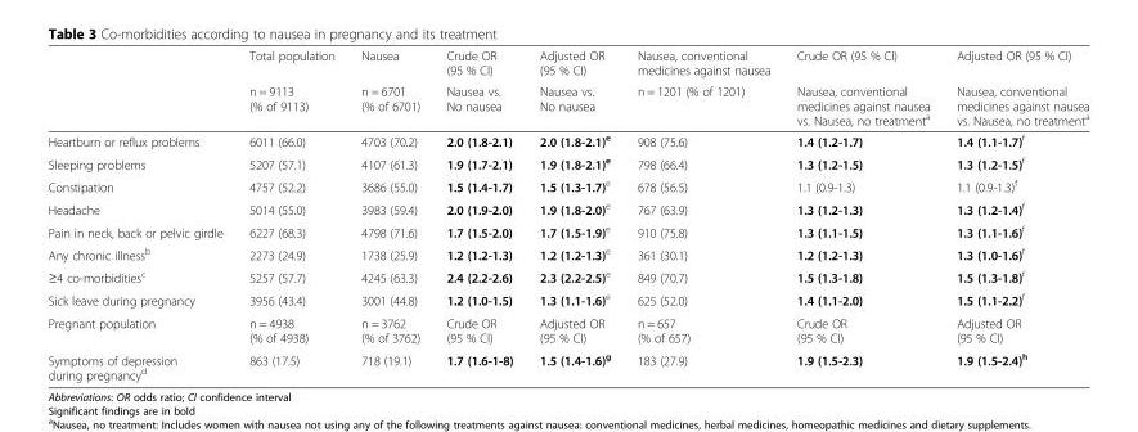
<table><thead><tr><td rowspan="2"></td><td rowspan="2">Total population n = 9113 (% of 9113)</td><td rowspan="2">Nausea n = 6701 (% of 6701)</td><td rowspan="2">Crude OR (95 % CI) Nausea vs. No nausea</td><td rowspan="2">Adjusted OR (95 % CI) Nausea vs. No nausea</td><td rowspan="2">Nausea, conventional medicines against nausea n = 1201 (% of 1201)</td><td rowspan="2">Crude OR (95 % CI) Nausea, conventional medicines against nausea vs. Nausea, no treatmenta</td><td rowspan="2">Adjusted OR (95 % CI) Nausea, conventional medicines against nausea vs. Nausea, no treatmenta</td></tr><tr></tr></thead><tbody><tr><td>Heartburn or reflux problems</td><td>6011 (66.0)</td><td>4703 (70.2)</td><td>2.0 (1.8-2.1)</td><td>2.0 (1.8-2.1)<sup>e</sup></td><td>908 (75.6)</td><td>1.4 (1.2-1.7)</td><td>1.4 (1.1-1.7)<sup>f</sup></td></tr><tr><td>Sleeping problems</td><td>5207 (57.1)</td><td>4107 (61.3)</td><td>1.9 (1.7-2.1)</td><td>1.9 (1.8-2.1)<sup>e</sup></td><td>798 (66.4)</td><td>1.3 (1.2-1.5)</td><td>1.3 (1.2-1.5)<sup>f</sup></td></tr><tr><td>Constipation</td><td>4757 (52.2)</td><td>3686 (55.0)</td><td>1.5 (1.4-1.7)</td><td>1.5 (1.3-1.7)<sup>e</sup></td><td>678 (56.5)</td><td>1.1 (0.9-1.3)</td><td>1.1 (0.9-1.3)<sup>f</sup></td></tr><tr><td>Headache</td><td>5014 (55.0)</td><td>3983 (59.4)</td><td>2.0 (1.9-2.0)</td><td>1.9 (1.8-2.0)<sup>e</sup></td><td>767 (63.9)</td><td>1.3 (1.2-1.3)</td><td>1.3 (1.2-1.4)<sup>f</sup></td></tr><tr><td>Pain in neck, back or pelvic girdle</td><td>6227 (68.3)</td><td>4798 (71.6)</td><td>1.7 (1.5-2.0)</td><td>1.7 (1.5-1.9)<sup>e</sup></td><td>910 (75.8)</td><td>1.3 (1.1-1.5)</td><td>1.3 (1.1-1.6)<sup>f</sup></td></tr><tr><td>Any chronic illness<sup>b</sup></td><td>2273 (24.9)</td><td>1738 (25.9)</td><td>1.2 (1.2-1.3)</td><td>1.2 (1.2-1.3)<sup>e</sup></td><td>361 (30.1)</td><td>1.2 (1.2-1.3)</td><td>1.3 (1.0-1.6)<sup>f</sup></td></tr><tr><td>≥4 co-morbidities<sup>c</sup></td><td>5257 (57.7)</td><td>4245 (63.3)</td><td>2.4 (2.2-2.6)</td><td>2.3 (2.2-2.5)<sup>e</sup></td><td>849 (70.7)</td><td>1.5 (1.3-1.8)</td><td>1.5 (1.3-1.8)<sup>f</sup></td></tr><tr><td>Sick leave during pregnancy</td><td>3956 (43.4)</td><td>3001 (44.8)</td><td>1.2 (1.0-1.5)</td><td>1.3 (1.1-1.6)<sup>e</sup></td><td>625 (52.0)</td><td>1.4 (1.1-2.0)</td><td>1.5 (1.1-2.2)<sup>f</sup></td></tr><tr><td>Pregnant population</td><td>n = 4938 (% of 4938)</td><td>n = 3762 (% of 3762)</td><td>Crude OR (95 % CI)</td><td>Adjusted OR (95 % CI)</td><td>n = 657 (% of 657)</td><td>Crude OR (95 % CI)</td><td>Adjusted OR (95 % CI)</td></tr><tr><td>Symptoms of depression during pregnancy<sup>d</sup></td><td>863 (17.5)</td><td>718 (19.1)</td><td>1.7 (1.6-1-8)</td><td>1.5 (1.4-1.6)<sup>g</sup></td><td>183 (27.9)</td><td>1.9 (1.5-2.3)</td><td>1.9 (1.5-2.4)<sup>h</sup></td></tr></tbody></table>